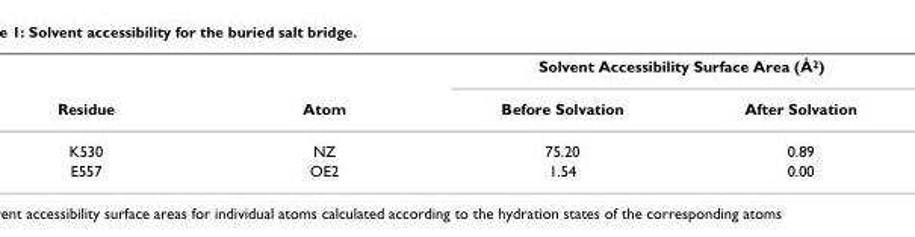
<table><thead><tr><td rowspan="2">Residue</td><td rowspan="2">Atom</td><td colspan="2">Solvent Accessibility Surface Area (Å<sup>2</sup>)</td></tr><tr><td>Before Solvation</td><td>After Solvation</td></tr></thead><tbody><tr><td>K530</td><td>NZ</td><td>75.20</td><td>0.89</td></tr><tr><td>E557</td><td>OE2</td><td>1.54</td><td>0.00</td></tr></tbody></table>